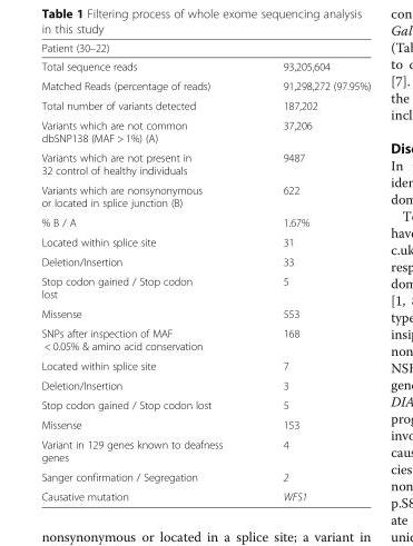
<table><thead><tr><td>Patient (30–22)</td><td></td></tr></thead><tbody><tr><td>Total sequence reads</td><td>93,205,604</td></tr><tr><td>Matched Reads (percentage of reads)</td><td>91,298,272 (97.95%)</td></tr><tr><td>Total number of variants detected</td><td>187,202</td></tr><tr><td>Variants which are not common dbSNP138 (MAF &gt; 1%) (A)</td><td>37,206</td></tr><tr><td>Variants which are not present in 32 control of healthy individuals</td><td>9487</td></tr><tr><td>Variants which are nonsynonymous or located in splice junction (B)</td><td>622</td></tr><tr><td>% B / A</td><td>1.67%</td></tr><tr><td>Located within splice site</td><td>31</td></tr><tr><td>Deletion/Insertion</td><td>33</td></tr><tr><td>Stop codon gained / Stop codon lost</td><td>5</td></tr><tr><td>Missense</td><td>553</td></tr><tr><td>SNPs after inspection of MAF &lt; 0.05% &amp; amino acid conservation</td><td>168</td></tr><tr><td>Located within splice site</td><td>7</td></tr><tr><td>Deletion/Insertion</td><td>3</td></tr><tr><td>Stop codon gained / Stop codon lost</td><td>5</td></tr><tr><td>Missense</td><td>153</td></tr><tr><td>Variant in 129 genes known to deafness genes</td><td>4</td></tr><tr><td>Sanger confirmation / Segregation</td><td>2</td></tr><tr><td>Causative mutation</td><td>WFS1</td></tr></tbody></table>